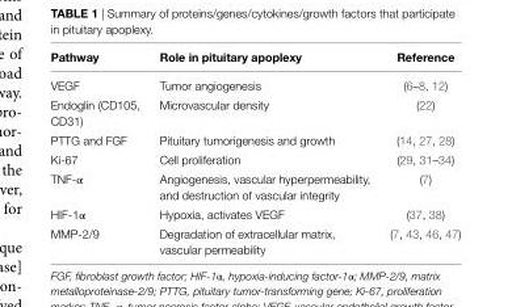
<table><thead><tr><td>Pathway</td><td>Role in pituitary apoplexy</td><td>Reference</td></tr></thead><tbody><tr><td>VEGF</td><td>Tumor angiogenesis</td><td>(6–8, 12)</td></tr><tr><td>Endoglin (CD105, CD31)</td><td>Microvascular density</td><td>(22)</td></tr><tr><td>PTTG and FGF</td><td>Pituitary tumorigenesis and growth</td><td>(14, 27, 28)</td></tr><tr><td>Ki-67</td><td>Cell proliferation</td><td>(29, 31–34)</td></tr><tr><td>TNF-α</td><td>Angiogenesis, vascular hyperpermeability, and destruction of vascular integrity</td><td>(7)</td></tr><tr><td>HIF-1α</td><td>Hypoxia, activates VEGF</td><td>(37, 38)</td></tr><tr><td>MMP-2/9</td><td>Degradation of extracellular matrix, vascular permeability</td><td>(7, 43, 46, 47)</td></tr></tbody></table>